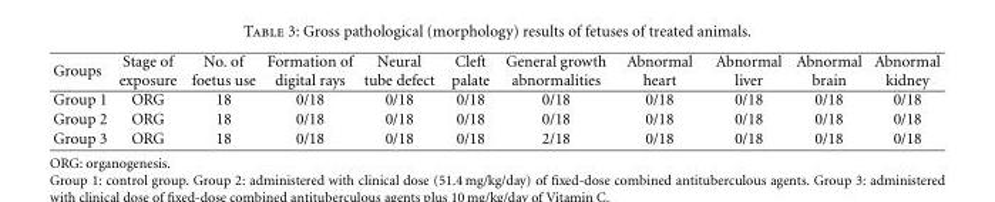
<table><thead><tr><td>Groups</td><td>Stage of exposure</td><td>No. of foetus use</td><td>Formation of digital rays</td><td>Neural tube defect</td><td>Cleft palate</td><td>General growth abnormalities</td><td>Abnormal heart</td><td>Abnormal liver</td><td>Abnormal brain</td><td>Abnormal kidney</td></tr></thead><tbody><tr><td>Group 1</td><td>ORG</td><td>18</td><td>0/18</td><td>0/18</td><td>0/18</td><td>0/18</td><td>0/18</td><td>0/18</td><td>0/18</td><td>0/18</td></tr><tr><td>Group 2</td><td>ORG</td><td>18</td><td>0/18</td><td>0/18</td><td>0/18</td><td>0/18</td><td>0/18</td><td>0/18</td><td>0/18</td><td>0/18</td></tr><tr><td>Group 3</td><td>ORG</td><td>18</td><td>0/18</td><td>0/18</td><td>0/18</td><td>2/18</td><td>0/18</td><td>0/18</td><td>0/18</td><td>0/18</td></tr></tbody></table>